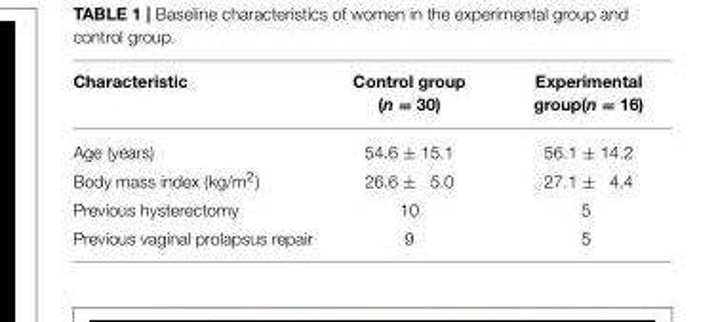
<table><thead><tr><td>Characteristic</td><td>Control group (n = 30)</td><td>Experimental group(n = 16)</td></tr></thead><tbody><tr><td>Age (years)</td><td>54.6 ± 15.1</td><td>56.1 ± 14.2</td></tr><tr><td>Body mass index (kg/m<sup>2</sup>)</td><td>26.6 ± 5.0</td><td>27.1 ± 4.4</td></tr><tr><td>Previous hysterectomy</td><td>10</td><td>5</td></tr><tr><td>Previous vaginal prolapsus repair</td><td>9</td><td>5</td></tr></tbody></table>